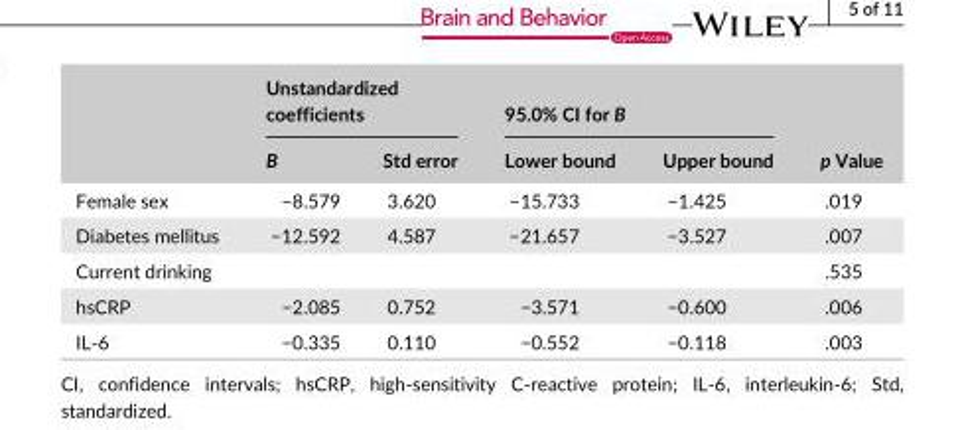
<table><thead><tr><td rowspan="2"></td><td colspan="2">Unstandardized coefficients</td><td colspan="2">95.0% CI for B</td><td rowspan="2">p Value</td></tr><tr><td>B</td><td>Std error</td><td>Lower bound</td><td>Upper bound</td></tr></thead><tbody><tr><td>Female sex</td><td>−8.579</td><td>3.620</td><td>−15.733</td><td>−1.425</td><td>.019</td></tr><tr><td>Diabetes mellitus</td><td>−12.592</td><td>4.587</td><td>−21.657</td><td>−3.527</td><td>.007</td></tr><tr><td>Current drinking</td><td></td><td></td><td></td><td></td><td>.535</td></tr><tr><td>hsCRP</td><td>−2.085</td><td>0.752</td><td>−3.571</td><td>−0.600</td><td>.006</td></tr><tr><td>IL- 6</td><td>−0.335</td><td>0.110</td><td>−0.552</td><td>−0.118</td><td>.003</td></tr></tbody></table>